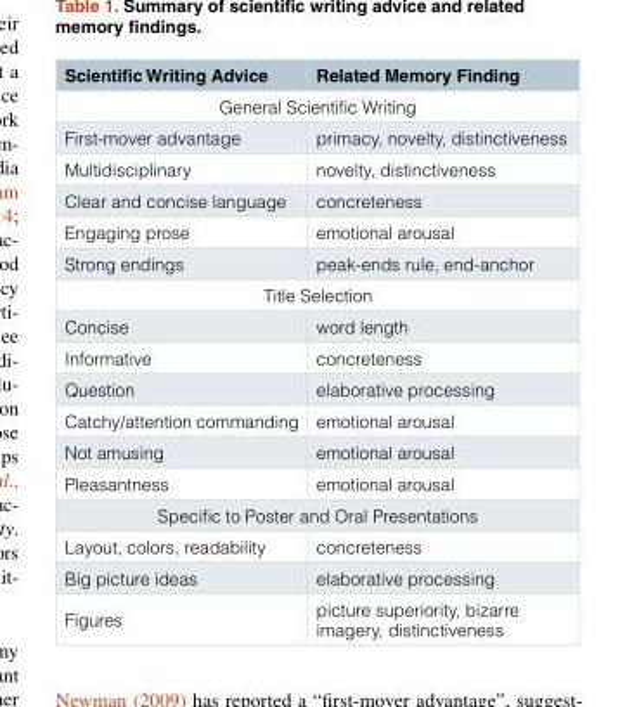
<table><thead><tr><td>Scientific Writing Advice</td><td>Related Memory Finding</td></tr></thead><tbody><tr><td colspan="2">General Scientific Writing</td></tr><tr><td>First-mover advantage</td><td>primacy, novelty, distinctiveness</td></tr><tr><td>Multidisciplinary</td><td>novelty, distinctiveness</td></tr><tr><td>Clear and concise language</td><td>concreteness</td></tr><tr><td>Engaging prose</td><td>emotional arousal</td></tr><tr><td>Strong endings</td><td>peak-ends rule, end-anchor</td></tr><tr><td colspan="2">Title Selection</td></tr><tr><td>Concise</td><td>word length</td></tr><tr><td>Informative</td><td>concreteness</td></tr><tr><td>Question</td><td>elaborative processing</td></tr><tr><td>Catchy/attention commanding</td><td>emotional arousal</td></tr><tr><td>Not amusing</td><td>emotional arousal</td></tr><tr><td>Pleasantness</td><td>emotional arousal</td></tr><tr><td colspan="2">Specific to Poster and Oral Presentations</td></tr><tr><td>Layout, colors, readability</td><td>concreteness</td></tr><tr><td>Big picture ideas</td><td>elaborative processing</td></tr><tr><td>Figures</td><td>picture superiority, bizarre imagery, distinctiveness</td></tr></tbody></table>